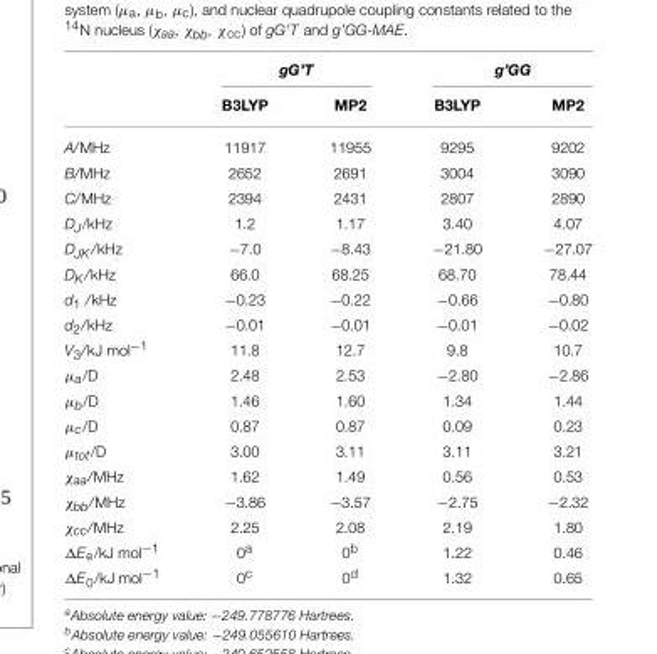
<table><thead><tr><td rowspan="2"></td><td colspan="2">gG’T</td><td colspan="2">g’GG</td></tr><tr><td>B3LYP</td><td>MP2</td><td>B3LYP</td><td>MP2</td></tr></thead><tbody><tr><td>A/MHz</td><td>11917</td><td>11955</td><td>9295</td><td>9202</td></tr><tr><td>B/MHz</td><td>2652</td><td>2691</td><td>3004</td><td>3090</td></tr><tr><td>C/MHz</td><td>2394</td><td>2431</td><td>2807</td><td>2890</td></tr><tr><td>DJ/kHz</td><td>1.2</td><td>1.17</td><td>3.40</td><td>4.07</td></tr><tr><td>DJK/kHz</td><td>−7.0</td><td>−8.43</td><td>−21.80</td><td>−27.07</td></tr><tr><td>DK/kHz</td><td>66.0</td><td>68.25</td><td>68.70</td><td>78.44</td></tr><tr><td>d<sub>1</sub> /kHz</td><td>−0.23</td><td>−0.22</td><td>−0.66</td><td>−0.80</td></tr><tr><td>d<sub>2</sub>/kHz</td><td>−0.01</td><td>−0.01</td><td>−0.01</td><td>−0.02</td></tr><tr><td>V<sub>3</sub>/kJ mol<sup>−1</sup></td><td>11.8</td><td>12.7</td><td>9.8</td><td>10.7</td></tr><tr><td>µa/D</td><td>2.48</td><td>2.53</td><td>−2.80</td><td>−2.86</td></tr><tr><td>µb/D</td><td>1.46</td><td>1.60</td><td>1.34</td><td>1.44</td></tr><tr><td>µc/D</td><td>0.87</td><td>0.87</td><td>0.09</td><td>0.23</td></tr><tr><td>µtot/D</td><td>3.00</td><td>3.11</td><td>3.11</td><td>3.21</td></tr><tr><td>χaa/MHz</td><td>1.62</td><td>1.49</td><td>0.56</td><td>0.53</td></tr><tr><td>χbb/MHz</td><td>−3.86</td><td>−3.57</td><td>−2.75</td><td>−2.32</td></tr><tr><td>χcc/MHz</td><td>2.25</td><td>2.08</td><td>2.19</td><td>1.80</td></tr><tr><td>ΔE<sub>e</sub>/kJ mol<sup>−1</sup></td><td>0<sup>a</sup></td><td>0<sup>b</sup></td><td>1.22</td><td>0.46</td></tr><tr><td>ΔE<sub>0</sub>/kJ mol<sup>−1</sup></td><td>0<sup>c</sup></td><td>0<sup>d</sup></td><td>1.32</td><td>0.65</td></tr></tbody></table>